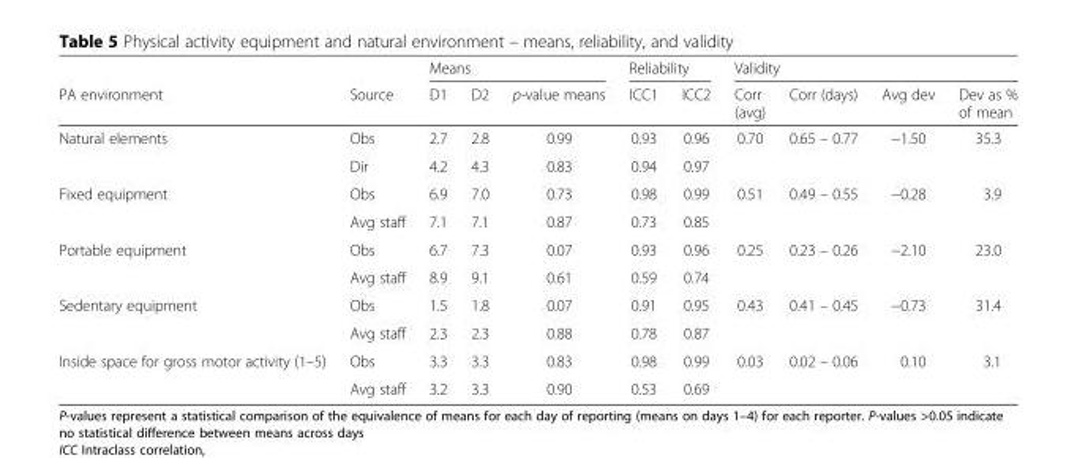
<table><thead><tr><td rowspan="2">PA environment</td><td rowspan="2">Source</td><td colspan="3">Means</td><td colspan="2">Reliability</td><td colspan="4">Validity</td></tr><tr><td>D1</td><td>D2</td><td>p-value means</td><td>ICC1</td><td>ICC2</td><td>Corr (avg)</td><td>Corr (days)</td><td>Avg dev</td><td>Dev as % of mean</td></tr></thead><tbody><tr><td rowspan="2">Natural elements</td><td>Obs</td><td>2.7</td><td>2.8</td><td>0.99</td><td>0.93</td><td>0.96</td><td>0.70</td><td>0.65 – 0.77</td><td>−1.50</td><td>35.3</td></tr><tr><td>Dir</td><td>4.2</td><td>4.3</td><td>0.83</td><td>0.94</td><td>0.97</td><td></td><td></td><td></td><td></td></tr><tr><td rowspan="2">Fixed equipment</td><td>Obs</td><td>6.9</td><td>7.0</td><td>0.73</td><td>0.98</td><td>0.99</td><td>0.51</td><td>0.49 – 0.55</td><td>−0.28</td><td>3.9</td></tr><tr><td>Avg staff</td><td>7.1</td><td>7.1</td><td>0.87</td><td>0.73</td><td>0.85</td><td></td><td></td><td></td><td></td></tr><tr><td rowspan="2">Portable equipment</td><td>Obs</td><td>6.7</td><td>7.3</td><td>0.07</td><td>0.93</td><td>0.96</td><td>0.25</td><td>0.23 – 0.26</td><td>−2.10</td><td>23.0</td></tr><tr><td>Avg staff</td><td>8.9</td><td>9.1</td><td>0.61</td><td>0.59</td><td>0.74</td><td></td><td></td><td></td><td></td></tr><tr><td rowspan="2">Sedentary equipment</td><td>Obs</td><td>1.5</td><td>1.8</td><td>0.07</td><td>0.91</td><td>0.95</td><td>0.43</td><td>0.41 – 0.45</td><td>−0.73</td><td>31.4</td></tr><tr><td>Avg staff</td><td>2.3</td><td>2.3</td><td>0.88</td><td>0.78</td><td>0.87</td><td></td><td></td><td></td><td></td></tr><tr><td rowspan="2">Inside space for gross motor activity (1–5)</td><td>Obs</td><td>3.3</td><td>3.3</td><td>0.83</td><td>0.98</td><td>0.99</td><td>0.03</td><td>0.02 – 0.06</td><td>0.10</td><td>3.1</td></tr><tr><td>Avg staff</td><td>3.2</td><td>3.3</td><td>0.90</td><td>0.53</td><td>0.69</td><td></td><td></td><td></td><td></td></tr></tbody></table>